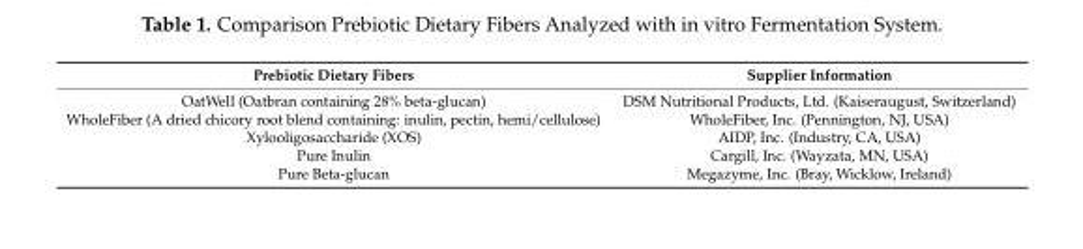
<table><thead><tr><td>Prebiotic Dietary Fibers</td><td>Supplier Information</td></tr></thead><tbody><tr><td>OatWell (Oatbran containing 28% beta-glucan)</td><td>DSM Nutritional Products, Ltd. (Kaiseraugust, Switzerland)</td></tr><tr><td>WholeFiber (A dried chicory root blend containing: inulin, pectin, hemi/cellulose)</td><td>WholeFiber, Inc. (Pennington, NJ, USA)</td></tr><tr><td>Xylooligosaccharide (XOS)</td><td>AIDP, Inc. (Industry, CA, USA)</td></tr><tr><td>Pure Inulin</td><td>Cargill, Inc. (Wayzata, MN, USA)</td></tr><tr><td>Pure Beta-glucan</td><td>Megazyme, Inc. (Bray, Wicklow, Ireland)</td></tr></tbody></table>